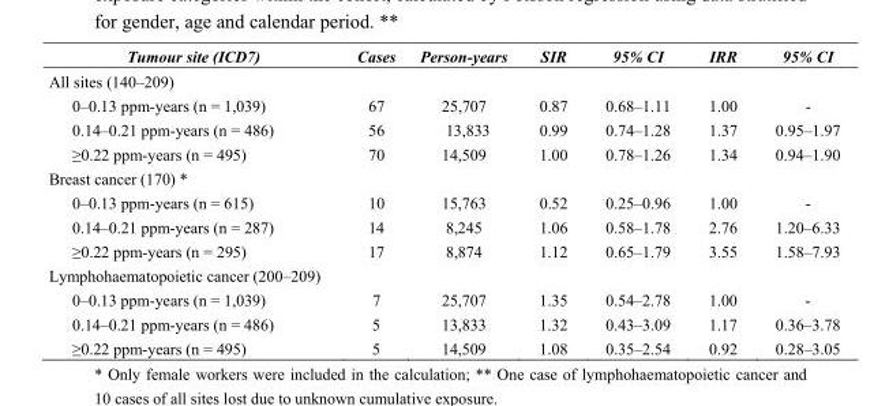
<table><thead><tr><td>Tumour site (ICD7)</td><td>Cases</td><td>Person-years</td><td>SIR</td><td>95% CI</td><td>IRR</td><td>95% CI</td></tr></thead><tbody><tr><td colspan="7">All sites (140–209)</td></tr><tr><td>0–0.13 ppm-years (n = 1,039)</td><td>67</td><td>25,707</td><td>0.87</td><td>0.68–1.11</td><td>1.00</td><td>-</td></tr><tr><td>0.14–0.21 ppm-years (n = 486)</td><td>56</td><td>13,833</td><td>0.99</td><td>0.74–1.28</td><td>1.37</td><td>0.95–1.97</td></tr><tr><td>≥0.22 ppm-years (n = 495)</td><td>70</td><td>14,509</td><td>1.00</td><td>0.78–1.26</td><td>1.34</td><td>0.94–1.90</td></tr><tr><td colspan="7">Breast cancer (170) *</td></tr><tr><td>0–0.13 ppm-years (n = 615)</td><td>10</td><td>15,763</td><td>0.52</td><td>0.25–0.96</td><td>1.00</td><td>-</td></tr><tr><td>0.14–0.21 ppm-years (n = 287)</td><td>14</td><td>8,245</td><td>1.06</td><td>0.58–1.78</td><td>2.76</td><td>1.20–6.33</td></tr><tr><td>≥0.22 ppm-years (n = 295)</td><td>17</td><td>8,874</td><td>1.12</td><td>0.65–1.79</td><td>3.55</td><td>1.58–7.93</td></tr><tr><td colspan="7">Lymphohaematopoietic cancer (200–209)</td></tr><tr><td>0–0.13 ppm-years (n = 1,039)</td><td>7</td><td>25,707</td><td>1.35</td><td>0.54–2.78</td><td>1.00</td><td>-</td></tr><tr><td>0.14–0.21 ppm-years (n = 486)</td><td>5</td><td>13,833</td><td>1.32</td><td>0.43–3.09</td><td>1.17</td><td>0.36–3.78</td></tr><tr><td>≥0.22 ppm-years (n = 495)</td><td>5</td><td>14,509</td><td>1.08</td><td>0.35–2.54</td><td>0.92</td><td>0.28–3.05</td></tr></tbody></table>